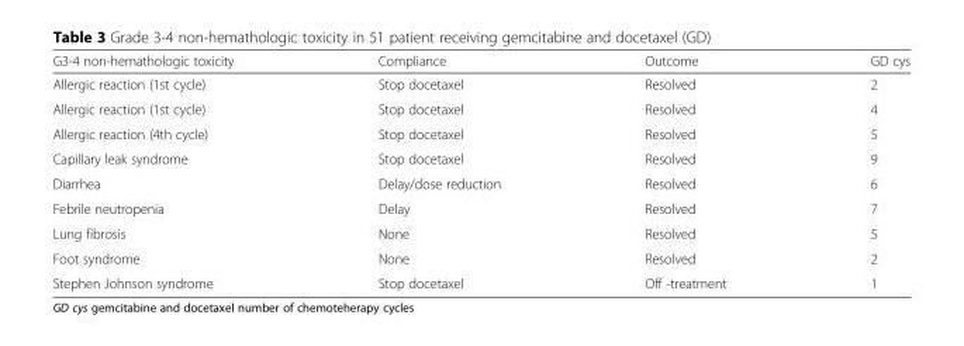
<table><thead><tr><td>G3-4 non-hemathologic toxicity</td><td>Compliance</td><td>Outcome</td><td>GD cys</td></tr></thead><tbody><tr><td>Allergic reaction (1st cycle)</td><td>Stop docetaxel</td><td>Resolved</td><td>2</td></tr><tr><td>Allergic reaction (1st cycle)</td><td>Stop docetaxel</td><td>Resolved</td><td>4</td></tr><tr><td>Allergic reaction (4th cycle)</td><td>Stop docetaxel</td><td>Resolved</td><td>5</td></tr><tr><td>Capillary leak syndrome</td><td>Stop docetaxel</td><td>Resolved</td><td>9</td></tr><tr><td>Diarrhea</td><td>Delay/dose reduction</td><td>Resolved</td><td>6</td></tr><tr><td>Febrile neutropenia</td><td>Delay</td><td>Resolved</td><td>7</td></tr><tr><td>Lung fibrosis</td><td>None</td><td>Resolved</td><td>5</td></tr><tr><td>Foot syndrome</td><td>None</td><td>Resolved</td><td>2</td></tr><tr><td>Stephen Johnson syndrome</td><td>Stop docetaxel</td><td>Off -treatment</td><td>1</td></tr></tbody></table>